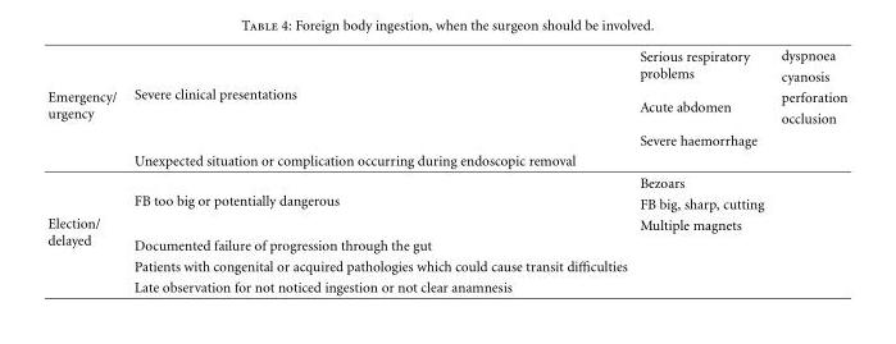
<table><tbody><tr><td rowspan="6">Emergency/ urgency</td><td rowspan="5">Severe clinical presentations</td><td rowspan="2">Serious respiratory problems</td><td>dyspnoea</td></tr><tr><td>cyanosis</td></tr><tr><td rowspan="2">Acute abdomen</td><td>perforation</td></tr><tr><td>occlusion</td></tr><tr><td>Severe haemorrhage</td><td></td></tr><tr><td>Unexpected situation or complication occurring during endoscopic removal</td><td></td><td></td></tr><tr><td rowspan="6">Election/ delayed</td><td rowspan="3">FB too big or potentially dangerous</td><td>Bezoars</td><td></td></tr><tr><td>FB big, sharp, cutting</td><td></td></tr><tr><td>Multiple magnets</td><td></td></tr><tr><td>Documented failure of progression through the gut</td><td></td><td></td></tr><tr><td>Patients with congenital or acquired pathologies which could cause transit difficulties</td><td></td><td></td></tr><tr><td>Late observation for not noticed ingestion or not clear anamnesis</td><td></td><td></td></tr></tbody></table>